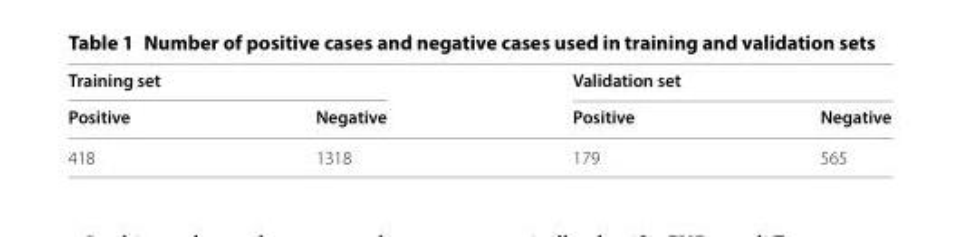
<table><thead><tr><td colspan="2">Training set</td><td colspan="2">Validation set</td></tr><tr><td>Positive</td><td>Negative</td><td>Positive</td><td>Negative</td></tr></thead><tbody><tr><td>418</td><td>1318</td><td>179</td><td>565</td></tr></tbody></table>